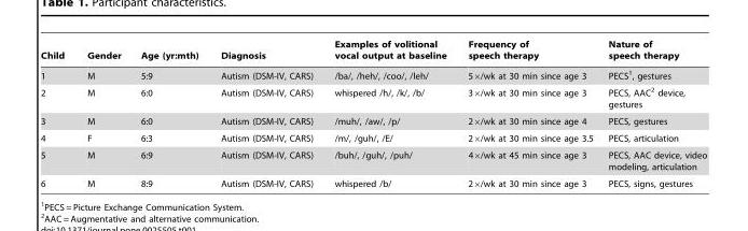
<table><thead><tr><td>Child</td><td>Gender</td><td>Age (yr:mth)</td><td>Diagnosis</td><td>Examples of volitional vocal output at baseline</td><td>Frequency of speech therapy</td><td>Nature of speech therapy</td></tr></thead><tbody><tr><td>1</td><td>M</td><td>5:9</td><td>Autism (DSM-IV, CARS)</td><td>/ba/, /heh/, /coo/, /leh/</td><td>5×/wk at 30 min since age 3</td><td>PECS<sup>1</sup>, gestures</td></tr><tr><td>2</td><td>M</td><td>6:0</td><td>Autism (DSM-IV, CARS)</td><td>whispered /h/, /k/, /b/</td><td>3×/wk at 30 min since age 3</td><td>PECS, AAC<sup>2</sup> device, gestures</td></tr><tr><td>3</td><td>M</td><td>6:0</td><td>Autism (DSM-IV, CARS)</td><td>/muh/, /aw/, /p/</td><td>2×/wk at 30 min since age 4</td><td>PECS, gestures</td></tr><tr><td>4</td><td>F</td><td>6:3</td><td>Autism (DSM-IV, CARS)</td><td>/m/, /guh/, /E/</td><td>2×/wk at 30 min since age 3.5</td><td>PECS, articulation</td></tr><tr><td>5</td><td>M</td><td>6:9</td><td>Autism (DSM-IV, CARS)</td><td>/buh/, /guh/, /puh/</td><td>4×/wk at 45 min since age 3</td><td>PECS, AAC device, video modeling, articulation</td></tr><tr><td>6</td><td>M</td><td>8:9</td><td>Autism (DSM-IV, CARS)</td><td>whispered /b/</td><td>2×/wk at 30 min since age 3</td><td>PECS, signs, gestures</td></tr></tbody></table>